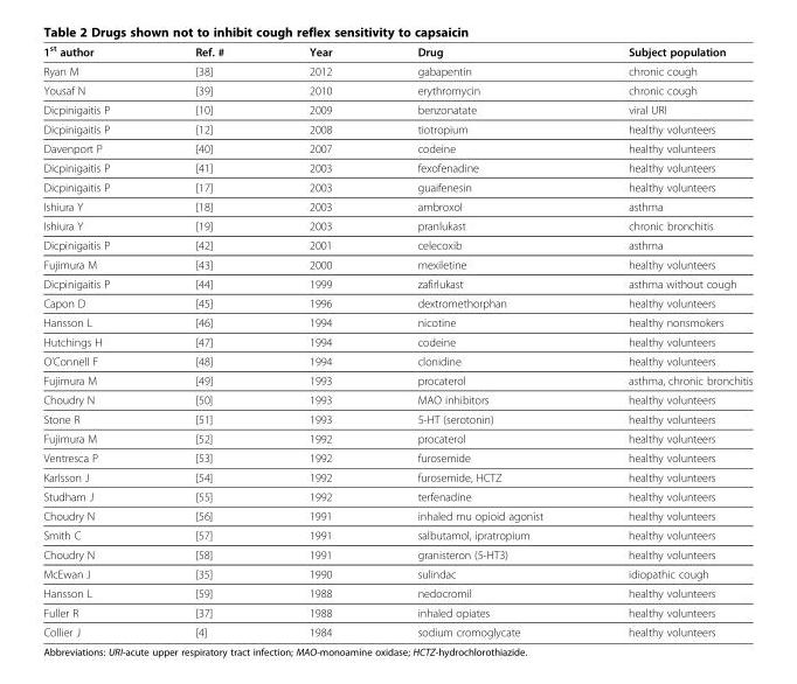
<table><thead><tr><td>1<sup>st</sup> author</td><td>Ref. #</td><td>Year</td><td>Drug</td><td>Subject population</td></tr></thead><tbody><tr><td>Ryan M</td><td>[38]</td><td>2012</td><td>gabapentin</td><td>chronic cough</td></tr><tr><td>Yousaf N</td><td>[39]</td><td>2010</td><td>erythromycin</td><td>chronic cough</td></tr><tr><td>Dicpinigaitis P</td><td>[10]</td><td>2009</td><td>benzonatate</td><td>viral URI</td></tr><tr><td>Dicpinigaitis P</td><td>[12]</td><td>2008</td><td>tiotropium</td><td>healthy volunteers</td></tr><tr><td>Davenport P</td><td>[40]</td><td>2007</td><td>codeine</td><td>healthy volunteers</td></tr><tr><td>Dicpinigaitis P</td><td>[41]</td><td>2003</td><td>fexofenadine</td><td>healthy volunteers</td></tr><tr><td>Dicpinigaitis P</td><td>[17]</td><td>2003</td><td>guaifenesin</td><td>healthy volunteers</td></tr><tr><td>Ishiura Y</td><td>[18]</td><td>2003</td><td>ambroxol</td><td>asthma</td></tr><tr><td>Ishiura Y</td><td>[19]</td><td>2003</td><td>pranlukast</td><td>chronic bronchitis</td></tr><tr><td>Dicpinigaitis P</td><td>[42]</td><td>2001</td><td>celecoxib</td><td>asthma</td></tr><tr><td>Fujimura M</td><td>[43]</td><td>2000</td><td>mexiletine</td><td>healthy volunteers</td></tr><tr><td>Dicpinigaitis P</td><td>[44]</td><td>1999</td><td>zafirlukast</td><td>asthma without cough</td></tr><tr><td>Capon D</td><td>[45]</td><td>1996</td><td>dextromethorphan</td><td>healthy volunteers</td></tr><tr><td>Hansson L</td><td>[46]</td><td>1994</td><td>nicotine</td><td>healthy nonsmokers</td></tr><tr><td>Hutchings H</td><td>[47]</td><td>1994</td><td>codeine</td><td>healthy volunteers</td></tr><tr><td>O’Connell F</td><td>[48]</td><td>1994</td><td>clonidine</td><td>healthy volunteers</td></tr><tr><td>Fujimura M</td><td>[49]</td><td>1993</td><td>procaterol</td><td>asthma, chronic bronchitis</td></tr><tr><td>Choudry N</td><td>[50]</td><td>1993</td><td>MAO inhibitors</td><td>healthy volunteers</td></tr><tr><td>Stone R</td><td>[51]</td><td>1993</td><td>5-HT (serotonin)</td><td>healthy volunteers</td></tr><tr><td>Fujimura M</td><td>[52]</td><td>1992</td><td>procaterol</td><td>healthy volunteers</td></tr><tr><td>Ventresca P</td><td>[53]</td><td>1992</td><td>furosemide</td><td>healthy volunteers</td></tr><tr><td>Karlsson J</td><td>[54]</td><td>1992</td><td>furosemide, HCTZ</td><td>healthy volunteers</td></tr><tr><td>Studham J</td><td>[55]</td><td>1992</td><td>terfenadine</td><td>healthy volunteers</td></tr><tr><td>Choudry N</td><td>[56]</td><td>1991</td><td>inhaled mu opioid agonist</td><td>healthy volunteers</td></tr><tr><td>Smith C</td><td>[57]</td><td>1991</td><td>salbutamol, ipratropium</td><td>healthy volunteers</td></tr><tr><td>Choudry N</td><td>[58]</td><td>1991</td><td>granisteron (5-HT3)</td><td>healthy volunteers</td></tr><tr><td>McEwan J</td><td>[35]</td><td>1990</td><td>sulindac</td><td>idiopathic cough</td></tr><tr><td>Hansson L</td><td>[59]</td><td>1988</td><td>nedocromil</td><td>healthy volunteers</td></tr><tr><td>Fuller R</td><td>[37]</td><td>1988</td><td>inhaled opiates</td><td>healthy volunteers</td></tr><tr><td>Collier J</td><td>[4]</td><td>1984</td><td>sodium cromoglycate</td><td>healthy volunteers</td></tr></tbody></table>